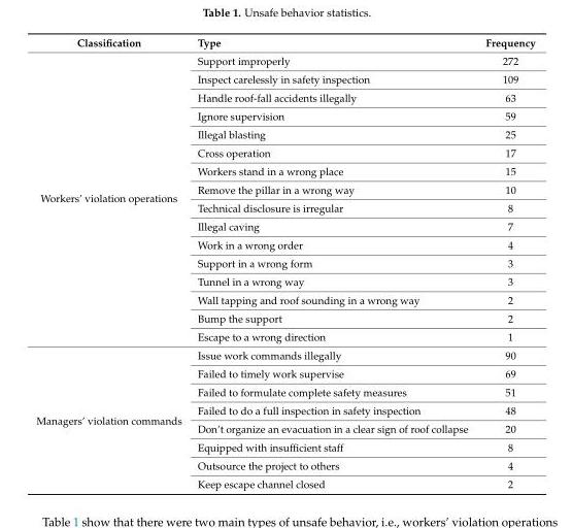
<table><thead><tr><td>Classification</td><td>Type</td><td>Frequency</td></tr></thead><tbody><tr><td rowspan="16">Workers’ violation operations</td><td>Support improperly</td><td>272</td></tr><tr><td>Inspect carelessly in safety inspection</td><td>109</td></tr><tr><td>Handle roof-fall accidents illegally</td><td>63</td></tr><tr><td>Ignore supervision</td><td>59</td></tr><tr><td>Illegal blasting</td><td>25</td></tr><tr><td>Cross operation</td><td>17</td></tr><tr><td>Workers stand in a wrong place</td><td>15</td></tr><tr><td>Remove the pillar in a wrong way</td><td>10</td></tr><tr><td>Technical disclosure is irregular</td><td>8</td></tr><tr><td>Illegal caving</td><td>7</td></tr><tr><td>Work in a wrong order</td><td>4</td></tr><tr><td>Support in a wrong form</td><td>3</td></tr><tr><td>Tunnel in a wrong way</td><td>3</td></tr><tr><td>Wall tapping and roof sounding in a wrong way</td><td>2</td></tr><tr><td>Bump the support</td><td>2</td></tr><tr><td>Escape to a wrong direction</td><td>1</td></tr><tr><td rowspan="8">Managers’ violation commands</td><td>Issue work commands illegally</td><td>90</td></tr><tr><td>Failed to timely work supervise</td><td>69</td></tr><tr><td>Failed to formulate complete safety measures</td><td>51</td></tr><tr><td>Failed to do a full inspection in safety inspection</td><td>48</td></tr><tr><td>Don’t organize an evacuation in a clear sign of roof collapse</td><td>20</td></tr><tr><td>Equipped with insufficient staff</td><td>8</td></tr><tr><td>Outsource the project to others</td><td>4</td></tr><tr><td>Keep escape channel closed</td><td>2</td></tr></tbody></table>